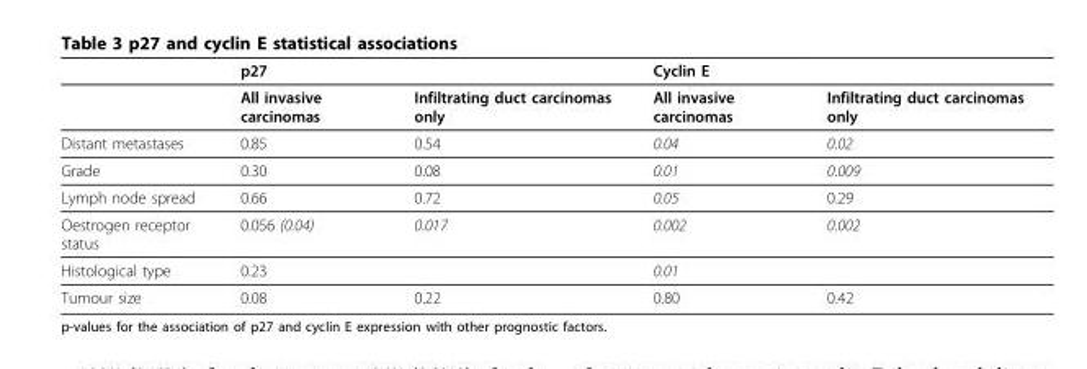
<table><thead><tr><td rowspan="2"></td><td colspan="2">p27</td><td colspan="2">Cyclin E</td></tr><tr><td>All invasive carcinomas</td><td>Infiltrating duct carcinomas only</td><td>All invasive carcinomas</td><td>Infiltrating duct carcinomas only</td></tr></thead><tbody><tr><td>Distant metastases</td><td>0.85</td><td>0.54</td><td>0.04</td><td>0.02</td></tr><tr><td>Grade</td><td>0.30</td><td>0.08</td><td>0.01</td><td>0.009</td></tr><tr><td>Lymph node spread</td><td>0.66</td><td>0.72</td><td>0.05</td><td>0.29</td></tr><tr><td>Oestrogen receptor status</td><td>0.056 (0.04)</td><td>0.017</td><td>0.002</td><td>0.002</td></tr><tr><td>Histological type</td><td>0.23</td><td></td><td>0.01</td><td></td></tr><tr><td>Tumour size</td><td>0.08</td><td>0.22</td><td>0.80</td><td>0.42</td></tr></tbody></table>